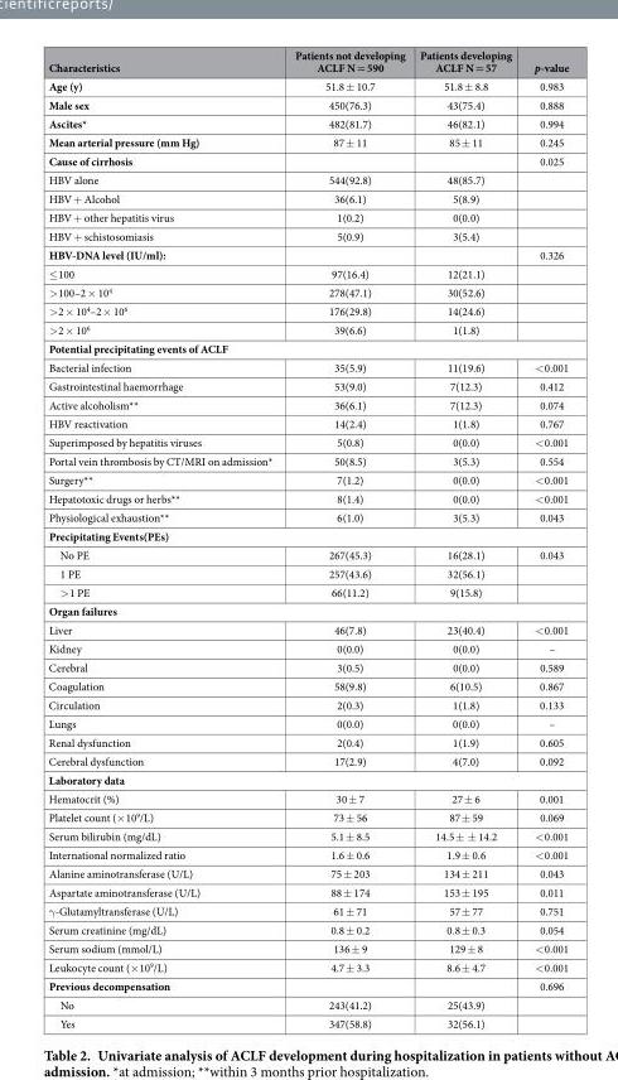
<table><thead><tr><td>Characteristics</td><td>Patients not developing ACLF N = 590</td><td>Patients developing ACLF N = 57</td><td>p-value</td></tr></thead><tbody><tr><td>Age (y)</td><td>51.8 ± 10.7</td><td>51.8 ± 8.8</td><td>0.983</td></tr><tr><td>Male sex</td><td>450(76.3)</td><td>43(75.4)</td><td>0.888</td></tr><tr><td>Ascites*</td><td>482(81.7)</td><td>46(82.1)</td><td>0.994</td></tr><tr><td>Mean arterial pressure (mm Hg)</td><td>87 ± 11</td><td>85 ± 11</td><td>0.245</td></tr><tr><td>Cause of cirrhosis</td><td></td><td></td><td>0.025</td></tr><tr><td>HBV alone</td><td>544(92.8)</td><td>48(85.7)</td><td></td></tr><tr><td>HBV + Alcohol</td><td>36(6.1)</td><td>5(8.9)</td><td></td></tr><tr><td>HBV + other hepatitis virus</td><td>1(0.2)</td><td>0(0.0)</td><td></td></tr><tr><td>HBV + schistosomiasis</td><td>5(0.9)</td><td>3(5.4)</td><td></td></tr><tr><td>HBV-DNA level (IU/ml):</td><td></td><td></td><td>0.326</td></tr><tr><td>≤ 100</td><td>97(16.4)</td><td>12(21.1)</td><td></td></tr><tr><td>&gt; 100–2 × 10<sup>4</sup></td><td>278(47.1)</td><td>30(52.6)</td><td></td></tr><tr><td>&gt; 2 × 10<sup>4</sup>–2 × 10<sup>6</sup></td><td>176(29.8)</td><td>14(24.6)</td><td></td></tr><tr><td>&gt; 2 × 10<sup>6</sup></td><td>39(6.6)</td><td>1(1.8)</td><td></td></tr><tr><td colspan="4">Potential precipitating events of ACLF</td></tr><tr><td>Bacterial infection</td><td>35(5.9)</td><td>11(19.6)</td><td>&lt; 0.001</td></tr><tr><td>Gastrointestinal haemorrhage</td><td>53(9.0)</td><td>7(12.3)</td><td>0.412</td></tr><tr><td>Active alcoholism**</td><td>36(6.1)</td><td>7(12.3)</td><td>0.074</td></tr><tr><td>HBV reactivation</td><td>14(2.4)</td><td>1(1.8)</td><td>0.767</td></tr><tr><td>Superimposed by hepatitis viruses</td><td>5(0.8)</td><td>0(0.0)</td><td>&lt; 0.001</td></tr><tr><td>Portal vein thrombosis by CT/MRI on admission*</td><td>50(8.5)</td><td>3(5.3)</td><td>0.554</td></tr><tr><td>Surgery**</td><td>7(1.2)</td><td>0(0.0)</td><td>&lt; 0.001</td></tr><tr><td>Hepatotoxic drugs or herbs**</td><td>8(1.4)</td><td>0(0.0)</td><td>&lt; 0.001</td></tr><tr><td>Physiological exhaustion**</td><td>6(1.0)</td><td>3(5.3)</td><td>0.043</td></tr><tr><td colspan="4">Precipitating Events(PEs)</td></tr><tr><td>No PE</td><td>267(45.3)</td><td>16(28.1)</td><td>0.043</td></tr><tr><td>1 PE</td><td>257(43.6)</td><td>32(56.1)</td><td></td></tr><tr><td>&gt; 1 PE</td><td>66(11.2)</td><td>9(15.8)</td><td></td></tr><tr><td colspan="4">Organ failures</td></tr><tr><td>Liver</td><td>46(7.8)</td><td>23(40.4)</td><td>&lt; 0.001</td></tr><tr><td>Kidney</td><td>0(0.0)</td><td>0(0.0)</td><td>–</td></tr><tr><td>Cerebral</td><td>3(0.5)</td><td>0(0.0)</td><td>0.589</td></tr><tr><td>Coagulation</td><td>58(9.8)</td><td>6(10.5)</td><td>0.867</td></tr><tr><td>Circulation</td><td>2(0.3)</td><td>1(1.8)</td><td>0.133</td></tr><tr><td>Lungs</td><td>0(0.0)</td><td>0(0.0)</td><td>–</td></tr><tr><td>Renal dysfunction</td><td>2(0.4)</td><td>1(1.9)</td><td>0.605</td></tr><tr><td>Cerebral dysfunction</td><td>17(2.9)</td><td>4(7.0)</td><td>0.092</td></tr><tr><td colspan="4">Laboratory data</td></tr><tr><td>Hematocrit (%)</td><td>30 ± 7</td><td>27 ± 6</td><td>0.001</td></tr><tr><td>Platelet count (× 10<sup>9</sup>/L)</td><td>73 ± 56</td><td>87 ± 59</td><td>0.069</td></tr><tr><td>Serum bilirubin (mg/dL)</td><td>5.1 ± 8.5</td><td>14.5 ± ± 14.2</td><td>&lt; 0.001</td></tr><tr><td>International normalized ratio</td><td>1.6 ± 0.6</td><td>1.9 ± 0.6</td><td>&lt; 0.001</td></tr><tr><td>Alanine aminotransferase (U/L)</td><td>75 ± 203</td><td>134 ± 211</td><td>0.043</td></tr><tr><td>Aspartate aminotransferase (U/L)</td><td>88 ± 174</td><td>153 ± 195</td><td>0.011</td></tr><tr><td>γ -Glutamyltransferase (U/L)</td><td>61 ± 71</td><td>57 ± 77</td><td>0.751</td></tr><tr><td>Serum creatinine (mg/dL)</td><td>0.8 ± 0.2</td><td>0.8 ± 0.3</td><td>0.054</td></tr><tr><td>Serum sodium (mmol/L)</td><td>136 ± 9</td><td>129 ± 8</td><td>&lt; 0.001</td></tr><tr><td>Leukocyte count (× 10<sup>9</sup>/L)</td><td>4.7 ± 3.3</td><td>8.6 ± 4.7</td><td>&lt; 0.001</td></tr><tr><td>Previous decompensation</td><td></td><td></td><td>0.696</td></tr><tr><td>No</td><td>243(41.2)</td><td>25(43.9)</td><td></td></tr><tr><td>Yes</td><td>347(58.8)</td><td>32(56.1)</td><td></td></tr></tbody></table>